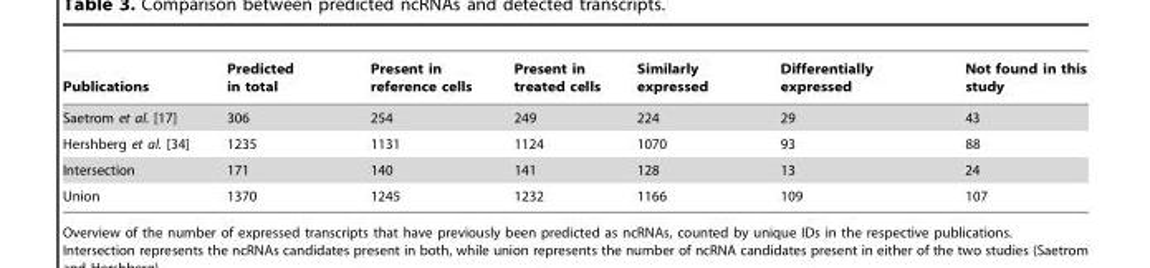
<table><thead><tr><td>Publications</td><td>Predicted in total</td><td>Present in reference cells</td><td>Present in treated cells</td><td>Similarly expressed</td><td>Differentially expressed</td><td>Not found in this study</td></tr></thead><tbody><tr><td>Saetrom et al. [17]</td><td>306</td><td>254</td><td>249</td><td>224</td><td>29</td><td>43</td></tr><tr><td>Hershberg et al. [34]</td><td>1235</td><td>1131</td><td>1124</td><td>1070</td><td>93</td><td>88</td></tr><tr><td>Intersection</td><td>171</td><td>140</td><td>141</td><td>128</td><td>13</td><td>24</td></tr><tr><td>Union</td><td>1370</td><td>1245</td><td>1232</td><td>1166</td><td>109</td><td>107</td></tr></tbody></table>